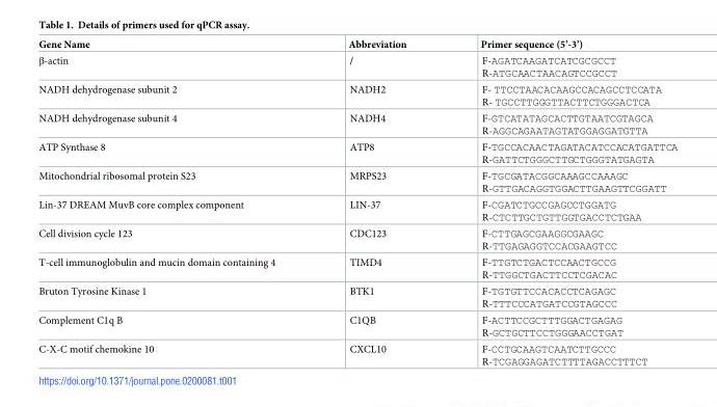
<table><thead><tr><td>Gene Name</td><td>Abbreviation</td><td>Primer sequence (5’-3’)</td></tr></thead><tbody><tr><td>β-actin</td><td>/</td><td>F-AGATCAAGATCATCGCGCCT R-ATGCAACTAACAGTCCGCCT</td></tr><tr><td>NADH dehydrogenase subunit 2</td><td>NADH2</td><td>F- TTCCTAACACAAGCCACAGCCTCCATA R- TGCCTTGGGTTACTTCTGGGACTCA</td></tr><tr><td>NADH dehydrogenase subunit 4</td><td>NADH4</td><td>F-GTCATATAGCACTTGTAATCGTAGCA R-AGGCAGAATAGTATGGAGGATGTTA</td></tr><tr><td>ATP Synthase 8</td><td>ATP8</td><td>F-TGCCACAACTAGATACATCCACATGATTCA R-GATTCTGGGCTTGCTGGGTATGAGTA</td></tr><tr><td>Mitochondrial ribosomal protein S23</td><td>MRPS23</td><td>F-TGCGATACGGCAAAGCCAAAGC R-GTTGACAGGTGGACTTGAAGTTCGGATT</td></tr><tr><td>Lin-37 DREAM MuvB core complex component</td><td>LIN-37</td><td>F-CGATCTGCCGAGCCTGGATG R-CTCTTGCTGTTGGTGACCTCTGAA</td></tr><tr><td>Cell division cycle 123</td><td>CDC123</td><td>F-CTTGAGCGAAGGCGAAGC R-TTGAGAGGTCCACGAAGTCC</td></tr><tr><td>T-cell immunoglobulin and mucin domain containing 4</td><td>TIMD4</td><td>F-TTGTCTGACTCCAACTGCCG R-TTGGCTGACTTCCTCGACAC</td></tr><tr><td>Bruton Tyrosine Kinase 1</td><td>BTK1</td><td>F-TGTGTTCCACACCTCAGAGC R-TTTCCCATGATCCGTAGCCC</td></tr><tr><td>Complement C1q B</td><td>C1QB</td><td>F-ACTTCCGCTTTGGACTGAGAG R-GCTGCTTCCTGGGAACCTGAT</td></tr><tr><td>C-X-C motif chemokine 10</td><td>CXCL10</td><td>F-CCTGCAAGTCAATCTTGCCC R-TCGAGGAGATCTTTTAGACCTTTCT</td></tr></tbody></table>